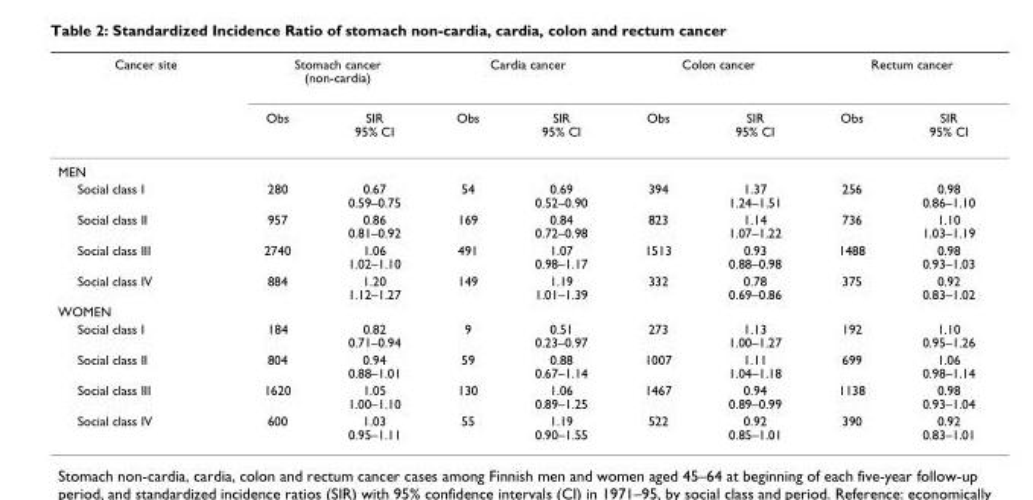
<table><thead><tr><td rowspan="2">Cancer site</td><td colspan="2">Stomach cancer (non-cardia)</td><td colspan="2">Cardia cancer</td><td colspan="2">Colon cancer</td><td colspan="2">Rectum cancer</td></tr><tr><td>Obs</td><td>SIR 95% CI</td><td>Obs</td><td>SIR 95% CI</td><td>Obs</td><td>SIR 95% CI</td><td>Obs</td><td>SIR 95% CI</td></tr></thead><tbody><tr><td colspan="9">MEN</td></tr><tr><td>Social class I</td><td>280</td><td>0.67 0.59–0.75</td><td>54</td><td>0.69 0.52–0.90</td><td>394</td><td>1.37 1.24–1.51</td><td>256</td><td>0.98 0.86–1.10</td></tr><tr><td>Social class II</td><td>957</td><td>0.86 0.81–0.92</td><td>169</td><td>0.84 0.72–0.98</td><td>823</td><td>1.14 1.07–1.22</td><td>736</td><td>1.10 1.03–1.19</td></tr><tr><td>Social class III</td><td>2740</td><td>1.06 1.02–1.10</td><td>491</td><td>1.07 0.98–1.17</td><td>1513</td><td>0.93 0.88–0.98</td><td>1488</td><td>0.98 0.93–1.03</td></tr><tr><td>Social class IV</td><td>884</td><td>1.20 1.12–1.27</td><td>149</td><td>1.19 1.01–1.39</td><td>332</td><td>0.78 0.69–0.86</td><td>375</td><td>0.92 0.83–1.02</td></tr><tr><td colspan="9">WOMEN</td></tr><tr><td>Social class I</td><td>184</td><td>0.82 0.71–0.94</td><td>9</td><td>0.51 0.23–0.97</td><td>273</td><td>1.13 1.00–1.27</td><td>192</td><td>1.10 0.95–1.26</td></tr><tr><td>Social class II</td><td>804</td><td>0.94 0.88–1.01</td><td>59</td><td>0.88 0.67–1.14</td><td>1007</td><td>1.11 1.04–1.18</td><td>699</td><td>1.06 0.98–1.14</td></tr><tr><td>Social class III</td><td>1620</td><td>1.05 1.00–1.10</td><td>130</td><td>1.06 0.89–1.25</td><td>1467</td><td>0.94 0.89–0.99</td><td>1138</td><td>0.98 0.93–1.04</td></tr><tr><td>Social class IV</td><td>600</td><td>1.03 0.95–1.11</td><td>55</td><td>1.19 0.90–1.55</td><td>522</td><td>0.92 0.85–1.01</td><td>390</td><td>0.92 0.83–1.01</td></tr></tbody></table>